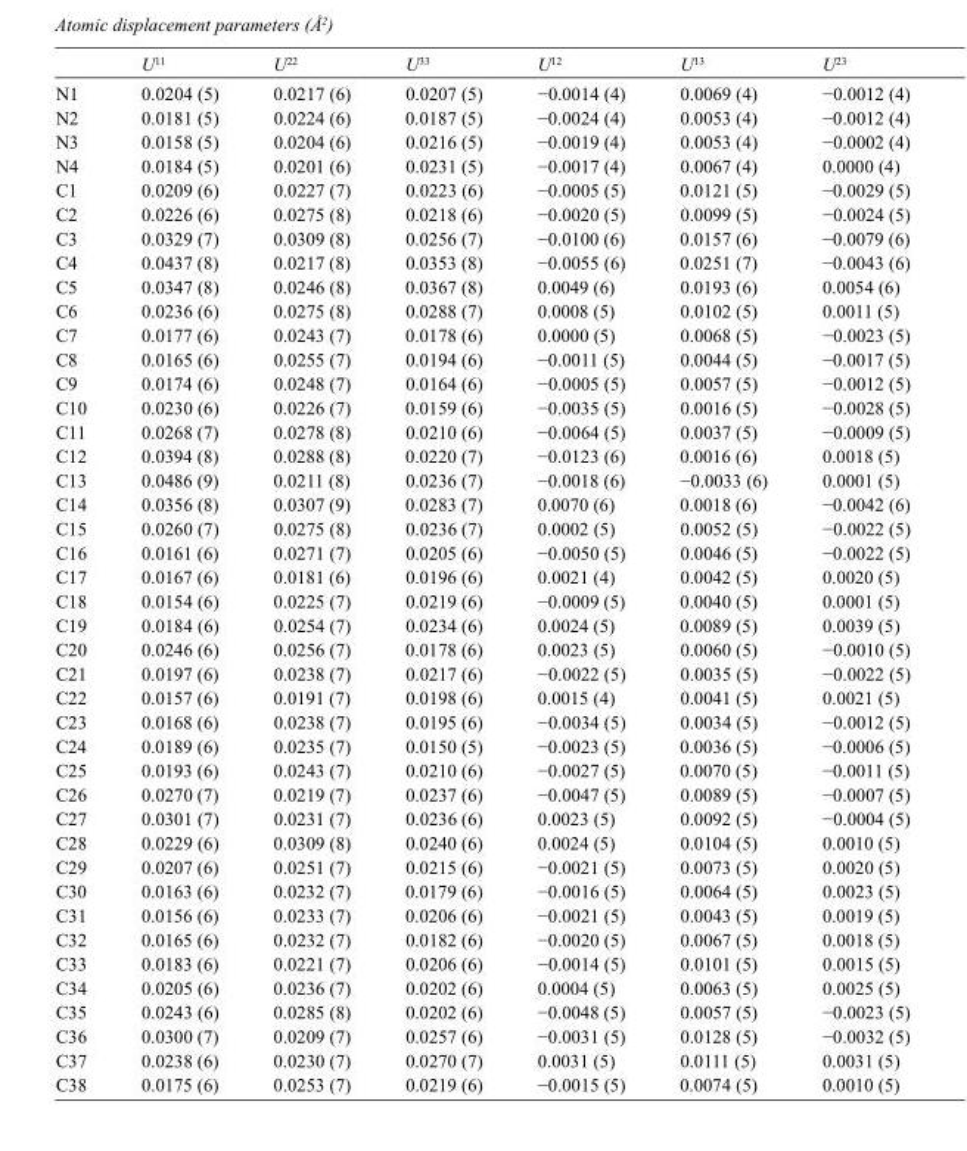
<table><thead><tr><td></td><td>U<sup>11</sup></td><td>U<sup>22</sup></td><td>U<sup>33</sup></td><td>U<sup>12</sup></td><td>U<sup>13</sup></td><td>U<sup>23</sup></td></tr></thead><tbody><tr><td>N1</td><td>0.0204 (5)</td><td>0.0217 (6)</td><td>0.0207 (5)</td><td>−0.0014 (4)</td><td>0.0069 (4)</td><td>−0.0012 (4)</td></tr><tr><td>N2</td><td>0.0181 (5)</td><td>0.0224 (6)</td><td>0.0187 (5)</td><td>−0.0024 (4)</td><td>0.0053 (4)</td><td>−0.0012 (4)</td></tr><tr><td>N3</td><td>0.0158 (5)</td><td>0.0204 (6)</td><td>0.0216 (5)</td><td>−0.0019 (4)</td><td>0.0053 (4)</td><td>−0.0002 (4)</td></tr><tr><td>N4</td><td>0.0184 (5)</td><td>0.0201 (6)</td><td>0.0231 (5)</td><td>−0.0017 (4)</td><td>0.0067 (4)</td><td>0.0000 (4)</td></tr><tr><td>C1</td><td>0.0209 (6)</td><td>0.0227 (7)</td><td>0.0223 (6)</td><td>−0.0005 (5)</td><td>0.0121 (5)</td><td>−0.0029 (5)</td></tr><tr><td>C2</td><td>0.0226 (6)</td><td>0.0275 (8)</td><td>0.0218 (6)</td><td>−0.0020 (5)</td><td>0.0099 (5)</td><td>−0.0024 (5)</td></tr><tr><td>C3</td><td>0.0329 (7)</td><td>0.0309 (8)</td><td>0.0256 (7)</td><td>−0.0100 (6)</td><td>0.0157 (6)</td><td>−0.0079 (6)</td></tr><tr><td>C4</td><td>0.0437 (8)</td><td>0.0217 (8)</td><td>0.0353 (8)</td><td>−0.0055 (6)</td><td>0.0251 (7)</td><td>−0.0043 (6)</td></tr><tr><td>C5</td><td>0.0347 (8)</td><td>0.0246 (8)</td><td>0.0367 (8)</td><td>0.0049 (6)</td><td>0.0193 (6)</td><td>0.0054 (6)</td></tr><tr><td>C6</td><td>0.0236 (6)</td><td>0.0275 (8)</td><td>0.0288 (7)</td><td>0.0008 (5)</td><td>0.0102 (5)</td><td>0.0011 (5)</td></tr><tr><td>C7</td><td>0.0177 (6)</td><td>0.0243 (7)</td><td>0.0178 (6)</td><td>0.0000 (5)</td><td>0.0068 (5)</td><td>−0.0023 (5)</td></tr><tr><td>C8</td><td>0.0165 (6)</td><td>0.0255 (7)</td><td>0.0194 (6)</td><td>−0.0011 (5)</td><td>0.0044 (5)</td><td>−0.0017 (5)</td></tr><tr><td>C9</td><td>0.0174 (6)</td><td>0.0248 (7)</td><td>0.0164 (6)</td><td>−0.0005 (5)</td><td>0.0057 (5)</td><td>−0.0012 (5)</td></tr><tr><td>C10</td><td>0.0230 (6)</td><td>0.0226 (7)</td><td>0.0159 (6)</td><td>−0.0035 (5)</td><td>0.0016 (5)</td><td>−0.0028 (5)</td></tr><tr><td>C11</td><td>0.0268 (7)</td><td>0.0278 (8)</td><td>0.0210 (6)</td><td>−0.0064 (5)</td><td>0.0037 (5)</td><td>−0.0009 (5)</td></tr><tr><td>C12</td><td>0.0394 (8)</td><td>0.0288 (8)</td><td>0.0220 (7)</td><td>−0.0123 (6)</td><td>0.0016 (6)</td><td>0.0018 (5)</td></tr><tr><td>C13</td><td>0.0486 (9)</td><td>0.0211 (8)</td><td>0.0236 (7)</td><td>−0.0018 (6)</td><td>−0.0033 (6)</td><td>0.0001 (5)</td></tr><tr><td>C14</td><td>0.0356 (8)</td><td>0.0307 (9)</td><td>0.0283 (7)</td><td>0.0070 (6)</td><td>0.0018 (6)</td><td>−0.0042 (6)</td></tr><tr><td>C15</td><td>0.0260 (7)</td><td>0.0275 (8)</td><td>0.0236 (7)</td><td>0.0002 (5)</td><td>0.0052 (5)</td><td>−0.0022 (5)</td></tr><tr><td>C16</td><td>0.0161 (6)</td><td>0.0271 (7)</td><td>0.0205 (6)</td><td>−0.0050 (5)</td><td>0.0046 (5)</td><td>−0.0022 (5)</td></tr><tr><td>C17</td><td>0.0167 (6)</td><td>0.0181 (6)</td><td>0.0196 (6)</td><td>0.0021 (4)</td><td>0.0042 (5)</td><td>0.0020 (5)</td></tr><tr><td>C18</td><td>0.0154 (6)</td><td>0.0225 (7)</td><td>0.0219 (6)</td><td>−0.0009 (5)</td><td>0.0040 (5)</td><td>0.0001 (5)</td></tr><tr><td>C19</td><td>0.0184 (6)</td><td>0.0254 (7)</td><td>0.0234 (6)</td><td>0.0024 (5)</td><td>0.0089 (5)</td><td>0.0039 (5)</td></tr><tr><td>C20</td><td>0.0246 (6)</td><td>0.0256 (7)</td><td>0.0178 (6)</td><td>0.0023 (5)</td><td>0.0060 (5)</td><td>−0.0010 (5)</td></tr><tr><td>C21</td><td>0.0197 (6)</td><td>0.0238 (7)</td><td>0.0217 (6)</td><td>−0.0022 (5)</td><td>0.0035 (5)</td><td>−0.0022 (5)</td></tr><tr><td>C22</td><td>0.0157 (6)</td><td>0.0191 (7)</td><td>0.0198 (6)</td><td>0.0015 (4)</td><td>0.0041 (5)</td><td>0.0021 (5)</td></tr><tr><td>C23</td><td>0.0168 (6)</td><td>0.0238 (7)</td><td>0.0195 (6)</td><td>−0.0034 (5)</td><td>0.0034 (5)</td><td>−0.0012 (5)</td></tr><tr><td>C24</td><td>0.0189 (6)</td><td>0.0235 (7)</td><td>0.0150 (5)</td><td>−0.0023 (5)</td><td>0.0036 (5)</td><td>−0.0006 (5)</td></tr><tr><td>C25</td><td>0.0193 (6)</td><td>0.0243 (7)</td><td>0.0210 (6)</td><td>−0.0027 (5)</td><td>0.0070 (5)</td><td>−0.0011 (5)</td></tr><tr><td>C26</td><td>0.0270 (7)</td><td>0.0219 (7)</td><td>0.0237 (6)</td><td>−0.0047 (5)</td><td>0.0089 (5)</td><td>−0.0007 (5)</td></tr><tr><td>C27</td><td>0.0301 (7)</td><td>0.0231 (7)</td><td>0.0236 (6)</td><td>0.0023 (5)</td><td>0.0092 (5)</td><td>−0.0004 (5)</td></tr><tr><td>C28</td><td>0.0229 (6)</td><td>0.0309 (8)</td><td>0.0240 (6)</td><td>0.0024 (5)</td><td>0.0104 (5)</td><td>0.0010 (5)</td></tr><tr><td>C29</td><td>0.0207 (6)</td><td>0.0251 (7)</td><td>0.0215 (6)</td><td>−0.0021 (5)</td><td>0.0073 (5)</td><td>0.0020 (5)</td></tr><tr><td>C30</td><td>0.0163 (6)</td><td>0.0232 (7)</td><td>0.0179 (6)</td><td>−0.0016 (5)</td><td>0.0064 (5)</td><td>0.0023 (5)</td></tr><tr><td>C31</td><td>0.0156 (6)</td><td>0.0233 (7)</td><td>0.0206 (6)</td><td>−0.0021 (5)</td><td>0.0043 (5)</td><td>0.0019 (5)</td></tr><tr><td>C32</td><td>0.0165 (6)</td><td>0.0232 (7)</td><td>0.0182 (6)</td><td>−0.0020 (5)</td><td>0.0067 (5)</td><td>0.0018 (5)</td></tr><tr><td>C33</td><td>0.0183 (6)</td><td>0.0221 (7)</td><td>0.0206 (6)</td><td>−0.0014 (5)</td><td>0.0101 (5)</td><td>0.0015 (5)</td></tr><tr><td>C34</td><td>0.0205 (6)</td><td>0.0236 (7)</td><td>0.0202 (6)</td><td>0.0004 (5)</td><td>0.0063 (5)</td><td>0.0025 (5)</td></tr><tr><td>C35</td><td>0.0243 (6)</td><td>0.0285 (8)</td><td>0.0202 (6)</td><td>−0.0048 (5)</td><td>0.0057 (5)</td><td>−0.0023 (5)</td></tr><tr><td>C36</td><td>0.0300 (7)</td><td>0.0209 (7)</td><td>0.0257 (6)</td><td>−0.0031 (5)</td><td>0.0128 (5)</td><td>−0.0032 (5)</td></tr><tr><td>C37</td><td>0.0238 (6)</td><td>0.0230 (7)</td><td>0.0270 (7)</td><td>0.0031 (5)</td><td>0.0111 (5)</td><td>0.0031 (5)</td></tr><tr><td>C38</td><td>0.0175 (6)</td><td>0.0253 (7)</td><td>0.0219 (6)</td><td>−0.0015 (5)</td><td>0.0074 (5)</td><td>0.0010 (5)</td></tr></tbody></table>